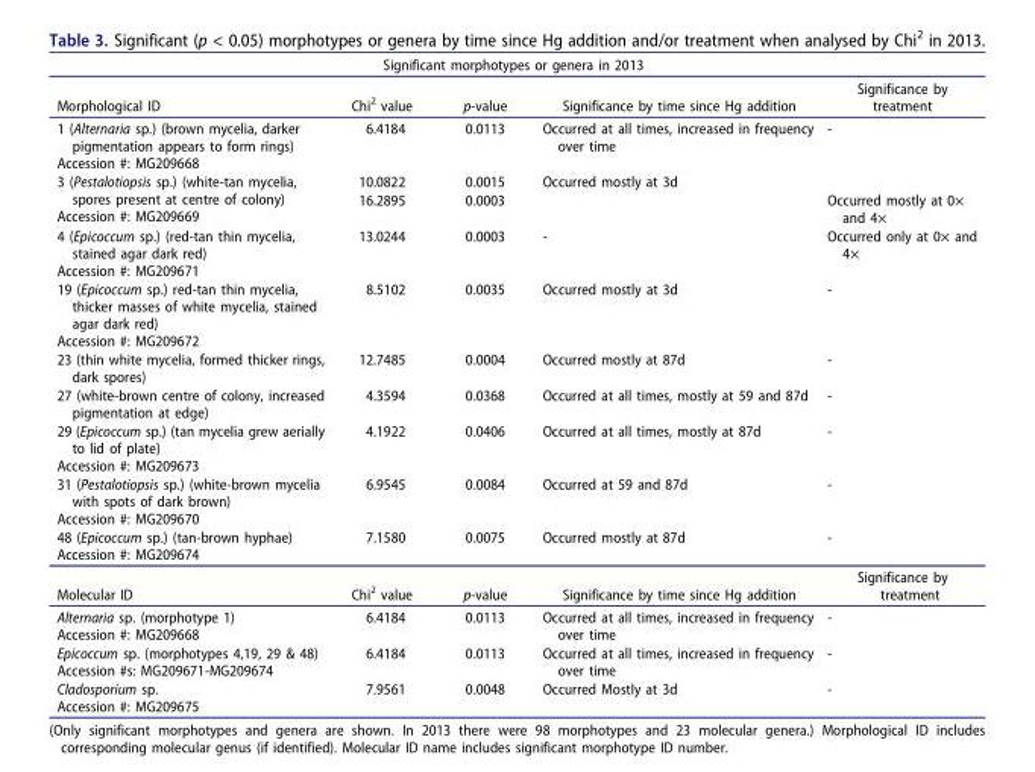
<table><thead><tr><td colspan="5">Significant morphotypes or genera in 2013</td></tr><tr><td>Morphological ID</td><td>Chi<sup>2</sup> value</td><td>p-value</td><td>Significance by time since Hg addition</td><td>Significance by treatment</td></tr></thead><tbody><tr><td>1 (Alternaria sp.) (brown mycelia, darker pigmentation appears to form rings) Accession #: MG209668</td><td>6.4184</td><td>0.0113</td><td>Occurred at all times, increased in frequency over time</td><td>-</td></tr><tr><td rowspan="2">3 (Pestalotiopsis sp.) (white-tan mycelia, spores present at centre of colony) Accession #: MG209669</td><td>10.0822</td><td>0.0015</td><td>Occurred mostly at 3d</td><td></td></tr><tr><td>16.2895</td><td>0.0003</td><td></td><td>Occurred mostly at 0× and 4×</td></tr><tr><td>4 (Epicoccum sp.) (red-tan thin mycelia, stained agar dark red) Accession #: MG209671</td><td>13.0244</td><td>0.0003</td><td>-</td><td>Occurred only at 0× and 4×</td></tr><tr><td>19 (Epicoccum sp.) red-tan thin mycelia, thicker masses of white mycelia, stained agar dark red) Accession #: MG209672</td><td>8.5102</td><td>0.0035</td><td>Occurred mostly at 3d</td><td>-</td></tr><tr><td>23 (thin white mycelia, formed thicker rings, dark spores)</td><td>12.7485</td><td>0.0004</td><td>Occurred mostly at 87d</td><td>-</td></tr><tr><td>27 (white-brown centre of colony, increased pigmentation at edge)</td><td>4.3594</td><td>0.0368</td><td>Occurred at all times, mostly at 59 and 87d</td><td>-</td></tr><tr><td>29 (Epicoccum sp.) (tan mycelia grew aerially to lid of plate) Accession #: MG209673</td><td>4.1922</td><td>0.0406</td><td>Occurred at all times, mostly at 87d</td><td>-</td></tr><tr><td>31 (Pestalotiopsis sp.) (white-brown mycelia with spots of dark brown) Accession #: MG209670</td><td>6.9545</td><td>0.0084</td><td>Occurred at 59 and 87d</td><td>-</td></tr><tr><td>48 (Epicoccum sp.) (tan-brown hyphae) Accession #: MG209674</td><td>7.1580</td><td>0.0075</td><td>Occurred mostly at 87d</td><td>-</td></tr><tr><td>Molecular ID</td><td>Chi<sup>2</sup> value</td><td>p-value</td><td>Significance by time since Hg addition</td><td>Significance by treatment</td></tr><tr><td>Alternaria sp. (morphotype 1) Accession #: MG209668</td><td>6.4184</td><td>0.0113</td><td>Occurred at all times, increased in frequency over time</td><td>-</td></tr><tr><td>Epicoccum sp. (morphotypes 4,19, 29 &amp; 48) Accession #s: MG209671-MG209674</td><td>6.4184</td><td>0.0113</td><td>Occurred at all times, increased in frequency over time</td><td>-</td></tr><tr><td>Cladosporium sp. Accession #: MG209675</td><td>7.9561</td><td>0.0048</td><td>Occurred Mostly at 3d</td><td>-</td></tr></tbody></table>